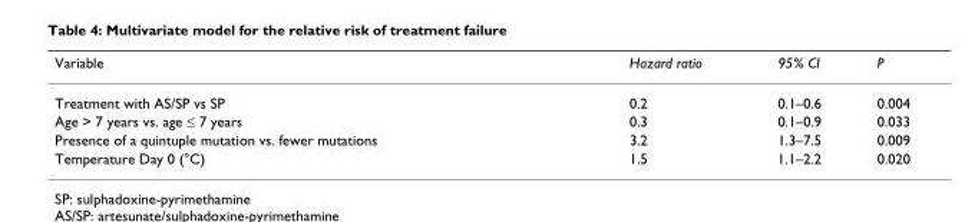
<table><thead><tr><td>Variable</td><td>Hazard ratio</td><td>95% CI</td><td>P</td></tr></thead><tbody><tr><td>Treatment with AS/SP vs SP</td><td>0.2</td><td>0.1–0.6</td><td>0.004</td></tr><tr><td>Age &gt; 7 years vs. age ≤ 7 years</td><td>0.3</td><td>0.1–0.9</td><td>0.033</td></tr><tr><td>Presence of a quintuple mutation vs. fewer mutations</td><td>3.2</td><td>1.3–7.5</td><td>0.009</td></tr><tr><td>Temperature Day 0 (°C)</td><td>1.5</td><td>1.1–2.2</td><td>0.020</td></tr></tbody></table>